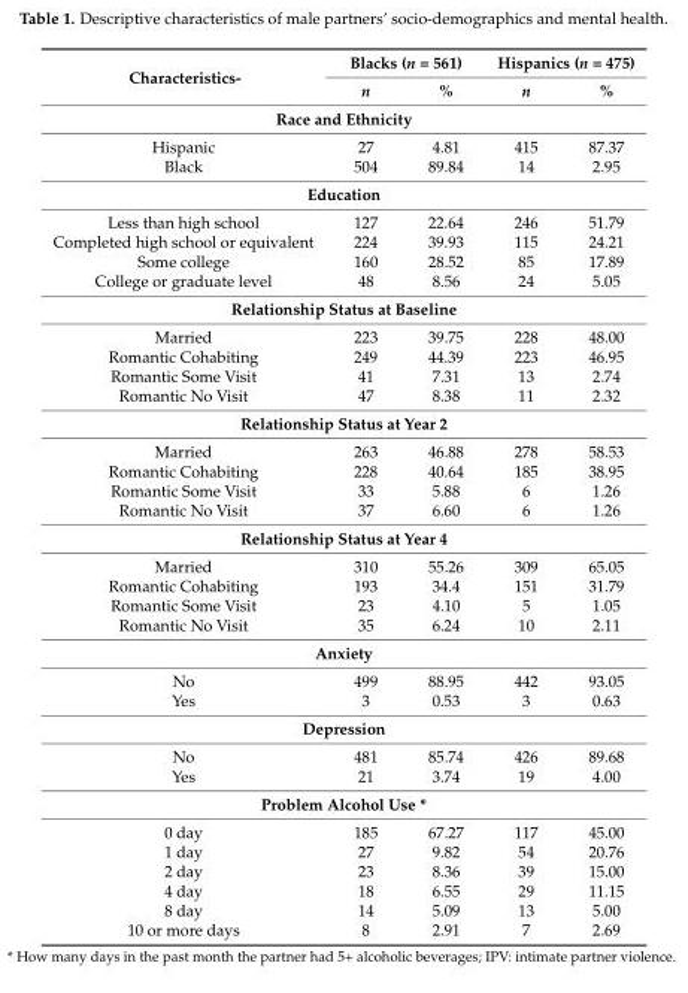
<table><thead><tr><td rowspan="2">Characteristics-</td><td colspan="2">Blacks (n = 561)</td><td colspan="2">Hispanics (n = 475)</td></tr><tr><td>n</td><td>%</td><td>n</td><td>%</td></tr></thead><tbody><tr><td colspan="5">Race and Ethnicity</td></tr><tr><td>Hispanic</td><td>27</td><td>4.81</td><td>415</td><td>87.37</td></tr><tr><td>Black</td><td>504</td><td>89.84</td><td>14</td><td>2.95</td></tr><tr><td colspan="5">Education</td></tr><tr><td>Less than high school</td><td>127</td><td>22.64</td><td>246</td><td>51.79</td></tr><tr><td>Completed high school or equivalent</td><td>224</td><td>39.93</td><td>115</td><td>24.21</td></tr><tr><td>Some college</td><td>160</td><td>28.52</td><td>85</td><td>17.89</td></tr><tr><td>College or graduate level</td><td>48</td><td>8.56</td><td>24</td><td>5.05</td></tr><tr><td colspan="5">Relationship Status at Baseline</td></tr><tr><td>Married</td><td>223</td><td>39.75</td><td>228</td><td>48.00</td></tr><tr><td>Romantic Cohabiting</td><td>249</td><td>44.39</td><td>223</td><td>46.95</td></tr><tr><td>Romantic Some Visit</td><td>41</td><td>7.31</td><td>13</td><td>2.74</td></tr><tr><td>Romantic No Visit</td><td>47</td><td>8.38</td><td>11</td><td>2.32</td></tr><tr><td colspan="5">Relationship Status at Year 2</td></tr><tr><td>Married</td><td>263</td><td>46.88</td><td>278</td><td>58.53</td></tr><tr><td>Romantic Cohabiting</td><td>228</td><td>40.64</td><td>185</td><td>38.95</td></tr><tr><td>Romantic Some Visit</td><td>33</td><td>5.88</td><td>6</td><td>1.26</td></tr><tr><td>Romantic No Visit</td><td>37</td><td>6.60</td><td>6</td><td>1.26</td></tr><tr><td colspan="5">Relationship Status at Year 4</td></tr><tr><td>Married</td><td>310</td><td>55.26</td><td>309</td><td>65.05</td></tr><tr><td>Romantic Cohabiting</td><td>193</td><td>34.4</td><td>151</td><td>31.79</td></tr><tr><td>Romantic Some Visit</td><td>23</td><td>4.10</td><td>5</td><td>1.05</td></tr><tr><td>Romantic No Visit</td><td>35</td><td>6.24</td><td>10</td><td>2.11</td></tr><tr><td colspan="5">Anxiety</td></tr><tr><td>No</td><td>499</td><td>88.95</td><td>442</td><td>93.05</td></tr><tr><td>Yes</td><td>3</td><td>0.53</td><td>3</td><td>0.63</td></tr><tr><td colspan="5">Depression</td></tr><tr><td>No</td><td>481</td><td>85.74</td><td>426</td><td>89.68</td></tr><tr><td>Yes</td><td>21</td><td>3.74</td><td>19</td><td>4.00</td></tr><tr><td colspan="5">Problem Alcohol Use *</td></tr><tr><td>0 day</td><td>185</td><td>67.27</td><td>117</td><td>45.00</td></tr><tr><td>1 day</td><td>27</td><td>9.82</td><td>54</td><td>20.76</td></tr><tr><td>2 day</td><td>23</td><td>8.36</td><td>39</td><td>15.00</td></tr><tr><td>4 day</td><td>18</td><td>6.55</td><td>29</td><td>11.15</td></tr><tr><td>8 day</td><td>14</td><td>5.09</td><td>13</td><td>5.00</td></tr><tr><td>10 or more days</td><td>8</td><td>2.91</td><td>7</td><td>2.69</td></tr></tbody></table>